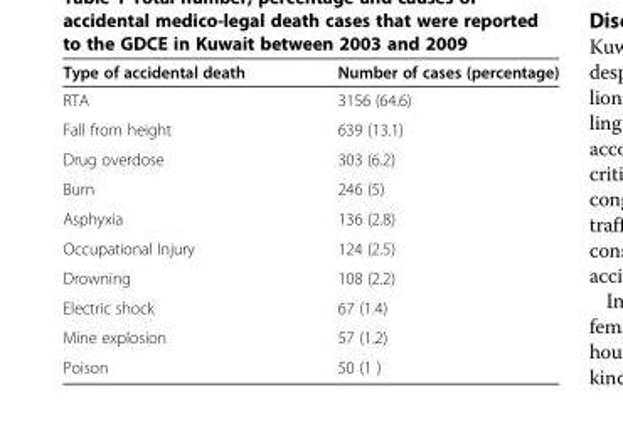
<table><thead><tr><td>Type of accidental death</td><td>Number of cases (percentage)</td></tr></thead><tbody><tr><td>RTA</td><td>3156 (64.6)</td></tr><tr><td>Fall from height</td><td>639 (13.1)</td></tr><tr><td>Drug overdose</td><td>303 (6.2)</td></tr><tr><td>Burn</td><td>246 (5)</td></tr><tr><td>Asphyxia</td><td>136 (2.8)</td></tr><tr><td>Occupational Injury</td><td>124 (2.5)</td></tr><tr><td>Drowning</td><td>108 (2.2)</td></tr><tr><td>Electric shock</td><td>67 (1.4)</td></tr><tr><td>Mine explosion</td><td>57 (1.2)</td></tr><tr><td>Poison</td><td>50 (1 )</td></tr></tbody></table>